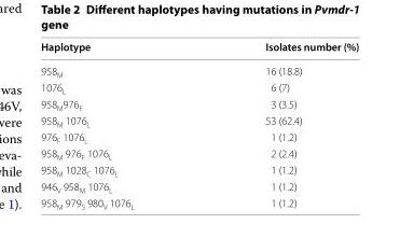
<table><thead><tr><td>Haplotype</td><td>Isolates number (%)</td></tr></thead><tbody><tr><td>958<sub>M</sub></td><td>16 (18.8)</td></tr><tr><td>1076<sub>L</sub></td><td>6 (7)</td></tr><tr><td>958<sub>M</sub>976<sub>F</sub></td><td>3 (3.5)</td></tr><tr><td>958<sub>M</sub> 1076<sub>L</sub></td><td>53 (62.4)</td></tr><tr><td>976<sub>F</sub> 1076<sub>L</sub></td><td>1 (1.2)</td></tr><tr><td>958<sub>M</sub> 976<sub>F</sub> 1076<sub>L</sub></td><td>2 (2.4)</td></tr><tr><td>958<sub>M</sub> 1028<sub>C</sub> 1076<sub>L</sub></td><td>1 (1.2)</td></tr><tr><td>946<sub>V</sub> 958<sub>M</sub> 1076<sub>L</sub></td><td>1 (1.2)</td></tr><tr><td>958<sub>M</sub> 979<sub>S</sub> 980<sub>V</sub> 1076<sub>L</sub></td><td>1 (1.2)</td></tr></tbody></table>